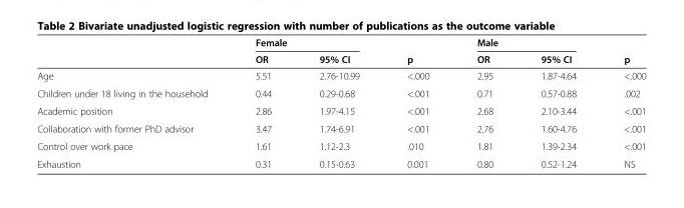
<table><thead><tr><td rowspan="2"></td><td colspan="2">Female</td><td rowspan="2">p</td><td colspan="2">Male</td><td rowspan="2">p</td></tr><tr><td>OR</td><td>95% CI</td><td>OR</td><td>95% CI</td></tr></thead><tbody><tr><td>Age</td><td>5.51</td><td>2.76-10.99</td><td>&lt;.000</td><td>2.95</td><td>1.87-4.64</td><td>&lt;.000</td></tr><tr><td>Children under 18 living in the household</td><td>0.44</td><td>0.29-0.68</td><td>&lt;.001</td><td>0.71</td><td>0.57-0.88</td><td>.002</td></tr><tr><td>Academic position</td><td>2.86</td><td>1.97-4.15</td><td>&lt;.001</td><td>2.68</td><td>2.10-3.44</td><td>&lt;.001</td></tr><tr><td>Collaboration with former PhD advisor</td><td>3.47</td><td>1.74-6.91</td><td>&lt;.001</td><td>2.76</td><td>1.60-4.76</td><td>&lt;.001</td></tr><tr><td>Control over work pace</td><td>1.61</td><td>1.12-2.3</td><td>.010</td><td>1.81</td><td>1.39-2.34</td><td>&lt;.001</td></tr><tr><td>Exhaustion</td><td>0.31</td><td>0.15-0.63</td><td>0.001</td><td>0.80</td><td>0.52-1.24</td><td>NS</td></tr></tbody></table>